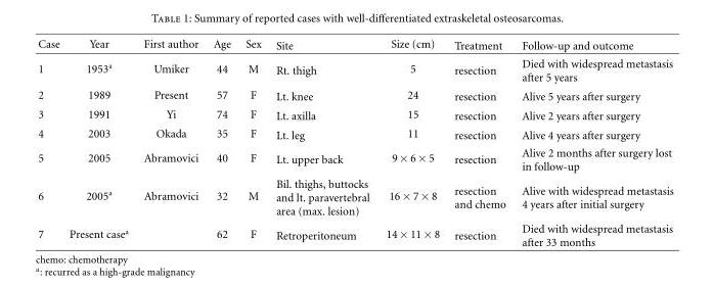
<table><thead><tr><td>Case</td><td>Year</td><td>First author</td><td>Age</td><td>Sex</td><td>Site</td><td>Size (cm)</td><td>Treatment</td><td>Follow-up and outcome</td></tr></thead><tbody><tr><td>1</td><td>1953<sup>a</sup></td><td>Umiker</td><td>44</td><td>M</td><td>Rt. thigh</td><td>5</td><td>resection</td><td>Died with widespread metastasis after 5 years</td></tr><tr><td>2</td><td>1989</td><td>Present</td><td>57</td><td>F</td><td>Lt. knee</td><td>24</td><td>resection</td><td>Alive 5 years after surgery</td></tr><tr><td>3</td><td>1991</td><td>Yi</td><td>74</td><td>F</td><td>Lt. axilla</td><td>15</td><td>resection</td><td>Alive 2 years after surgery</td></tr><tr><td>4</td><td>2003</td><td>Okada</td><td>35</td><td>F</td><td>Lt. leg</td><td>11</td><td>resection</td><td>Alive 4 years after surgery</td></tr><tr><td>5</td><td>2005</td><td>Abramovici</td><td>40</td><td>F</td><td>Lt. upper back</td><td>9 × 6 × 5</td><td>resection</td><td>Alive 2 months after surgery lost in follow-up</td></tr><tr><td>6</td><td>2005<sup>a</sup></td><td>Abramovici</td><td>32</td><td>M</td><td>Bil. thighs, buttocks and lt. paravertebral area (max. lesion)</td><td>16 × 7 × 8</td><td>resection and chemo</td><td>Alive with widespread metastasis 4 years after initial surgery</td></tr><tr><td>7</td><td>Present case<sup>a</sup></td><td></td><td>62</td><td>F</td><td>Retroperitoneum</td><td>14 × 11 × 8</td><td>resection</td><td>Died with widespread metastasis after 33 months</td></tr></tbody></table>